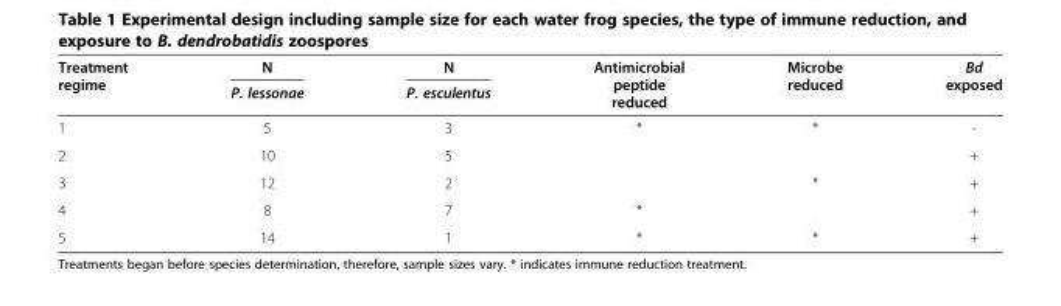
<table><thead><tr><td rowspan="2">Treatment regime</td><td rowspan="2">N P. lessonae</td><td rowspan="2">N P. esculentus</td><td rowspan="2">Antimicrobial peptide reduced</td><td rowspan="2">Microbe reduced</td><td rowspan="2">Bd exposed</td></tr><tr></tr></thead><tbody><tr><td>1</td><td>5</td><td>3</td><td>*</td><td>*</td><td>-</td></tr><tr><td>2</td><td>10</td><td>5</td><td></td><td></td><td>+</td></tr><tr><td>3</td><td>12</td><td>2</td><td></td><td>*</td><td>+</td></tr><tr><td>4</td><td>8</td><td>7</td><td>*</td><td></td><td>+</td></tr><tr><td>5</td><td>14</td><td>1</td><td>*</td><td>*</td><td>+</td></tr></tbody></table>